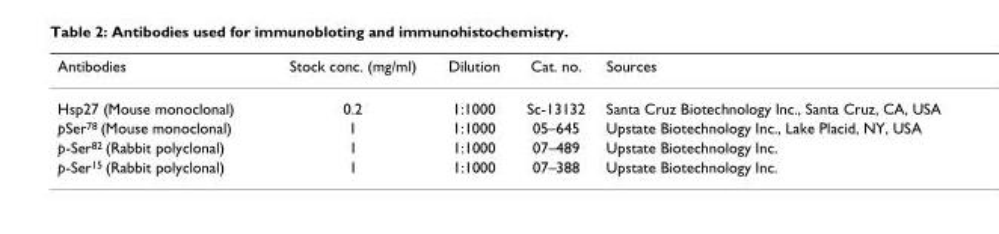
<table><thead><tr><td>Antibodies</td><td>Stock conc. (mg/ml)</td><td>Dilution</td><td>Cat. no.</td><td>Sources</td></tr></thead><tbody><tr><td>Hsp27 (Mouse monoclonal)</td><td>0.2</td><td>1:1000</td><td>Sc-13132</td><td>Santa Cruz Biotechnology Inc., Santa Cruz, CA, USA</td></tr><tr><td>pSer<sup>78</sup> (Mouse monoclonal)</td><td>1</td><td>1:1000</td><td>05–645</td><td>Upstate Biotechnology Inc., Lake Placid, NY, USA</td></tr><tr><td>p-Ser<sup>82</sup> (Rabbit polyclonal)</td><td>1</td><td>1:1000</td><td>07–489</td><td>Upstate Biotechnology Inc.</td></tr><tr><td>p-Ser<sup>15</sup> (Rabbit polyclonal)</td><td>1</td><td>1:1000</td><td>07–388</td><td>Upstate Biotechnology Inc.</td></tr></tbody></table>